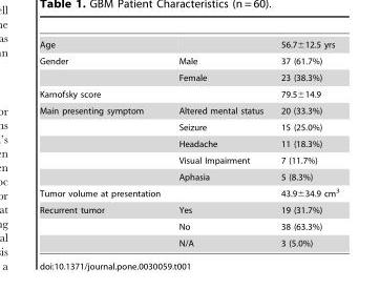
<table><tbody><tr><td>Age</td><td></td><td>56.7±12.5 yrs</td></tr><tr><td rowspan="2">Gender</td><td>Male</td><td>37 (61.7%)</td></tr><tr><td>Female</td><td>23 (38.3%)</td></tr><tr><td>Karnofsky score</td><td></td><td>79.5±14.9</td></tr><tr><td rowspan="5">Main presenting symptom</td><td>Altered mental status</td><td>20 (33.3%)</td></tr><tr><td>Seizure</td><td>15 (25.0%)</td></tr><tr><td>Headache</td><td>11 (18.3%)</td></tr><tr><td>Visual Impairment</td><td>7 (11.7%)</td></tr><tr><td>Aphasia</td><td>5 (8.3%)</td></tr><tr><td>Tumor volume at presentation</td><td></td><td>43.9±34.9 cm<sup>3</sup></td></tr><tr><td rowspan="3">Recurrent tumor</td><td>Yes</td><td>19 (31.7%)</td></tr><tr><td>No</td><td>38 (63.3%)</td></tr><tr><td>N/A</td><td>3 (5.0%)</td></tr></tbody></table>